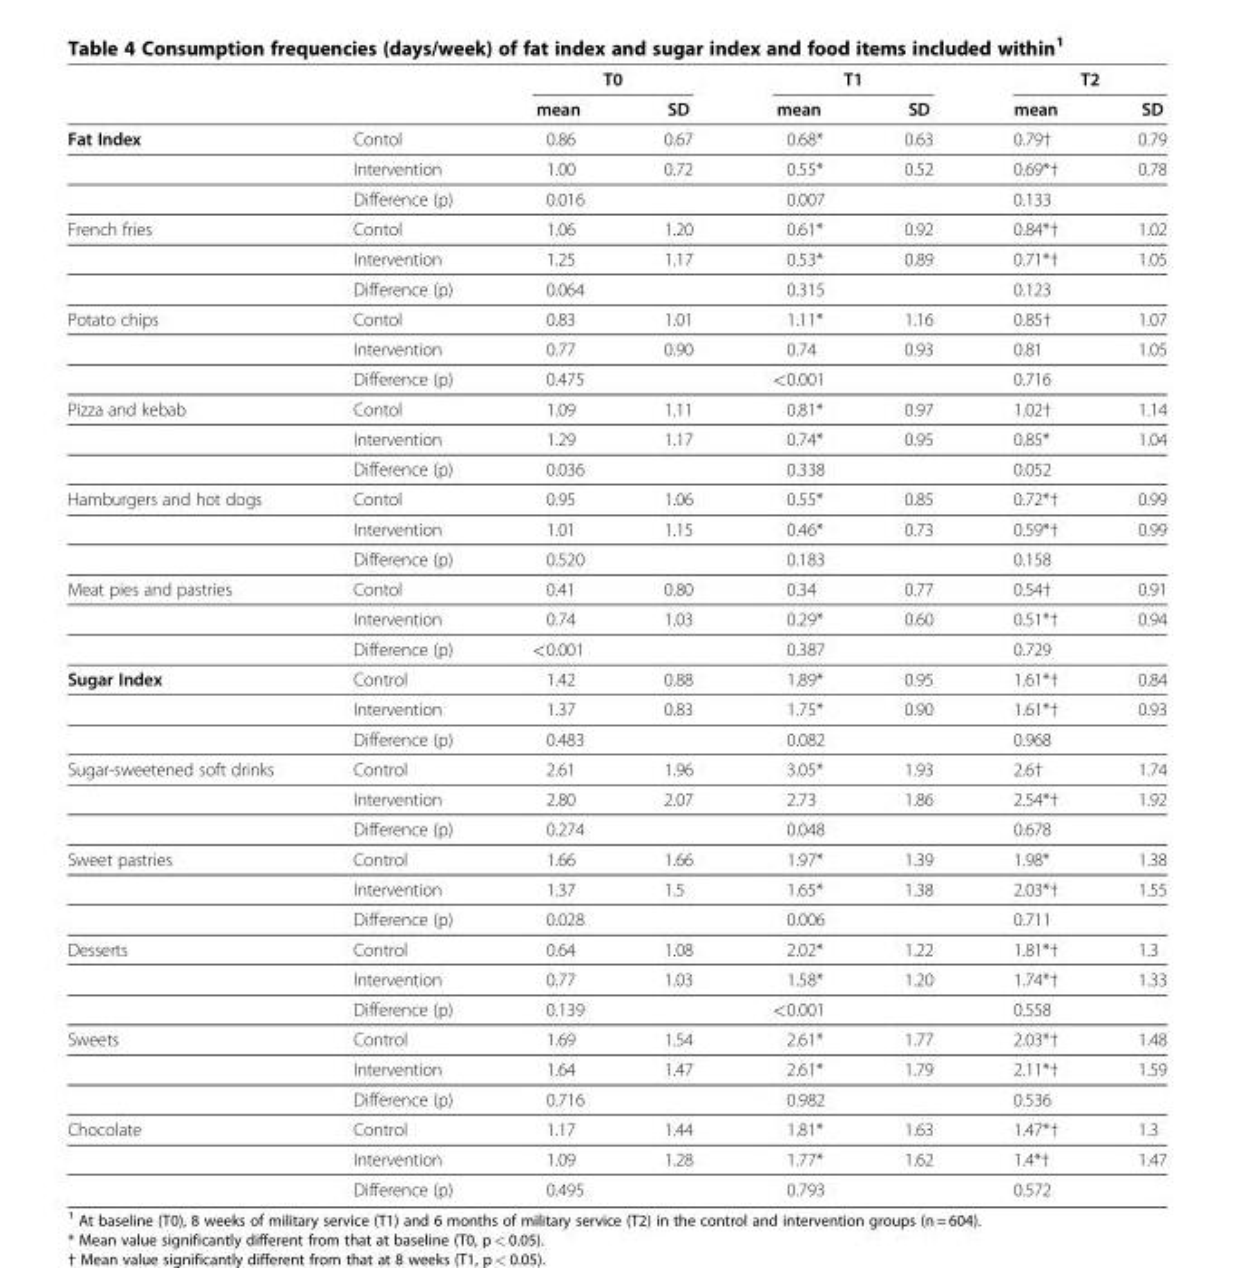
<table><thead><tr><td rowspan="2"></td><td rowspan="2"></td><td colspan="2">T0</td><td colspan="2">T1</td><td colspan="2">T2</td></tr><tr><td>mean</td><td>SD</td><td>mean</td><td>SD</td><td>mean</td><td>SD</td></tr></thead><tbody><tr><td rowspan="3">Fat Index</td><td>Contol</td><td>0.86</td><td>0.67</td><td>0.68*</td><td>0.63</td><td>0.79†</td><td>0.79</td></tr><tr><td>Intervention</td><td>1.00</td><td>0.72</td><td>0.55*</td><td>0.52</td><td>0.69*†</td><td>0.78</td></tr><tr><td>Difference (p)</td><td>0.016</td><td></td><td>0.007</td><td></td><td>0.133</td><td></td></tr><tr><td rowspan="3">French fries</td><td>Contol</td><td>1.06</td><td>1.20</td><td>0.61*</td><td>0.92</td><td>0.84*†</td><td>1.02</td></tr><tr><td>Intervention</td><td>1.25</td><td>1.17</td><td>0.53*</td><td>0.89</td><td>0.71*†</td><td>1.05</td></tr><tr><td>Difference (p)</td><td>0.064</td><td></td><td>0.315</td><td></td><td>0.123</td><td></td></tr><tr><td rowspan="3">Potato chips</td><td>Contol</td><td>0.83</td><td>1.01</td><td>1.11*</td><td>1.16</td><td>0.85†</td><td>1.07</td></tr><tr><td>Intervention</td><td>0.77</td><td>0.90</td><td>0.74</td><td>0.93</td><td>0.81</td><td>1.05</td></tr><tr><td>Difference (p)</td><td>0.475</td><td></td><td>&lt;0.001</td><td></td><td>0.716</td><td></td></tr><tr><td rowspan="3">Pizza and kebab</td><td>Contol</td><td>1.09</td><td>1.11</td><td>0.81*</td><td>0.97</td><td>1.02†</td><td>1.14</td></tr><tr><td>Intervention</td><td>1.29</td><td>1.17</td><td>0.74*</td><td>0.95</td><td>0.85*</td><td>1.04</td></tr><tr><td>Difference (p)</td><td>0.036</td><td></td><td>0.338</td><td></td><td>0.052</td><td></td></tr><tr><td rowspan="3">Hamburgers and hot dogs</td><td>Contol</td><td>0.95</td><td>1.06</td><td>0.55*</td><td>0.85</td><td>0.72*†</td><td>0.99</td></tr><tr><td>Intervention</td><td>1.01</td><td>1.15</td><td>0.46*</td><td>0.73</td><td>0.59*†</td><td>0.99</td></tr><tr><td>Difference (p)</td><td>0.520</td><td></td><td>0.183</td><td></td><td>0.158</td><td></td></tr><tr><td rowspan="3">Meat pies and pastries</td><td>Contol</td><td>0.41</td><td>0.80</td><td>0.34</td><td>0.77</td><td>0.54†</td><td>0.91</td></tr><tr><td>Intervention</td><td>0.74</td><td>1.03</td><td>0.29*</td><td>0.60</td><td>0.51*†</td><td>0.94</td></tr><tr><td>Difference (p)</td><td>&lt;0.001</td><td></td><td>0.387</td><td></td><td>0.729</td><td></td></tr><tr><td rowspan="3">Sugar Index</td><td>Control</td><td>1.42</td><td>0.88</td><td>1.89*</td><td>0.95</td><td>1.61*†</td><td>0.84</td></tr><tr><td>Intervention</td><td>1.37</td><td>0.83</td><td>1.75*</td><td>0.90</td><td>1.61*†</td><td>0.93</td></tr><tr><td>Difference (p)</td><td>0.483</td><td></td><td>0.082</td><td></td><td>0.968</td><td></td></tr><tr><td rowspan="3">Sugar-sweetened soft drinks</td><td>Control</td><td>2.61</td><td>1.96</td><td>3.05*</td><td>1.93</td><td>2.6†</td><td>1.74</td></tr><tr><td>Intervention</td><td>2.80</td><td>2.07</td><td>2.73</td><td>1.86</td><td>2.54*†</td><td>1.92</td></tr><tr><td>Difference (p)</td><td>0.274</td><td></td><td>0.048</td><td></td><td>0.678</td><td></td></tr><tr><td rowspan="3">Sweet pastries</td><td>Control</td><td>1.66</td><td>1.66</td><td>1.97*</td><td>1.39</td><td>1.98*</td><td>1.38</td></tr><tr><td>Intervention</td><td>1.37</td><td>1.5</td><td>1.65*</td><td>1.38</td><td>2.03*†</td><td>1.55</td></tr><tr><td>Difference (p)</td><td>0.028</td><td></td><td>0.006</td><td></td><td>0.711</td><td></td></tr><tr><td rowspan="3">Desserts</td><td>Control</td><td>0.64</td><td>1.08</td><td>2.02*</td><td>1.22</td><td>1.81*†</td><td>1.3</td></tr><tr><td>Intervention</td><td>0.77</td><td>1.03</td><td>1.58*</td><td>1.20</td><td>1.74*†</td><td>1.33</td></tr><tr><td>Difference (p)</td><td>0.139</td><td></td><td>&lt;0.001</td><td></td><td>0.558</td><td></td></tr><tr><td rowspan="3">Sweets</td><td>Control</td><td>1.69</td><td>1.54</td><td>2.61*</td><td>1.77</td><td>2.03*†</td><td>1.48</td></tr><tr><td>Intervention</td><td>1.64</td><td>1.47</td><td>2.61*</td><td>1.79</td><td>2.11*†</td><td>1.59</td></tr><tr><td>Difference (p)</td><td>0.716</td><td></td><td>0.982</td><td></td><td>0.536</td><td></td></tr><tr><td rowspan="3">Chocolate</td><td>Control</td><td>1.17</td><td>1.44</td><td>1.81*</td><td>1.63</td><td>1.47*†</td><td>1.3</td></tr><tr><td>Intervention</td><td>1.09</td><td>1.28</td><td>1.77*</td><td>1.62</td><td>1.4*†</td><td>1.47</td></tr><tr><td>Difference (p)</td><td>0.495</td><td></td><td>0.793</td><td></td><td>0.572</td><td></td></tr></tbody></table>